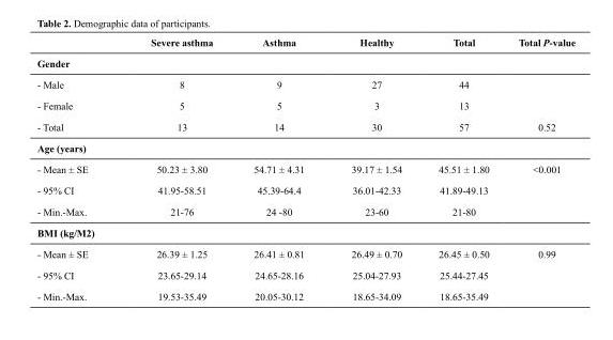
<table><thead><tr><td></td><td>Severe asthma</td><td>Asthma</td><td>Healthy</td><td>Total</td><td>Total P-value</td></tr><tr><td colspan="6">Gender</td></tr></thead><tbody><tr><td>- Male</td><td>8</td><td>9</td><td>27</td><td>44</td><td rowspan="2"></td></tr><tr><td>- Female</td><td>5</td><td>5</td><td>3</td><td>13</td></tr><tr><td>- Total</td><td>13</td><td>14</td><td>30</td><td>57</td><td>0.52</td></tr><tr><td colspan="6">Age (years)</td></tr><tr><td>- Mean ± SE</td><td>50.23 ± 3.80</td><td>54.71 ± 4.31</td><td>39.17 ± 1.54</td><td>45.51 ± 1.80</td><td>&lt;0.001</td></tr><tr><td>- 95% CI</td><td>41.95-58.51</td><td>45.39-64.4</td><td>36.01-42.33</td><td>41.89-49.13</td><td></td></tr><tr><td>- Min.-Max.</td><td>21-76</td><td>24 -80</td><td>23-60</td><td>21-80</td><td></td></tr><tr><td colspan="6">BMI (kg/M<sup>2</sup>)</td></tr><tr><td>- Mean ± SE</td><td>26.39 ± 1.25</td><td>26.41 ± 0.81</td><td>26.49 ± 0.70</td><td>26.45 ± 0.50</td><td>0.99</td></tr><tr><td>- 95% CI</td><td>23.65-29.14</td><td>24.65-28.16</td><td>25.04-27.93</td><td>25.44-27.45</td><td></td></tr><tr><td>- Min.-Max.</td><td>19.53-35.49</td><td>20.05-30.12</td><td>18.65-34.09</td><td>18.65-35.49</td><td></td></tr></tbody></table>